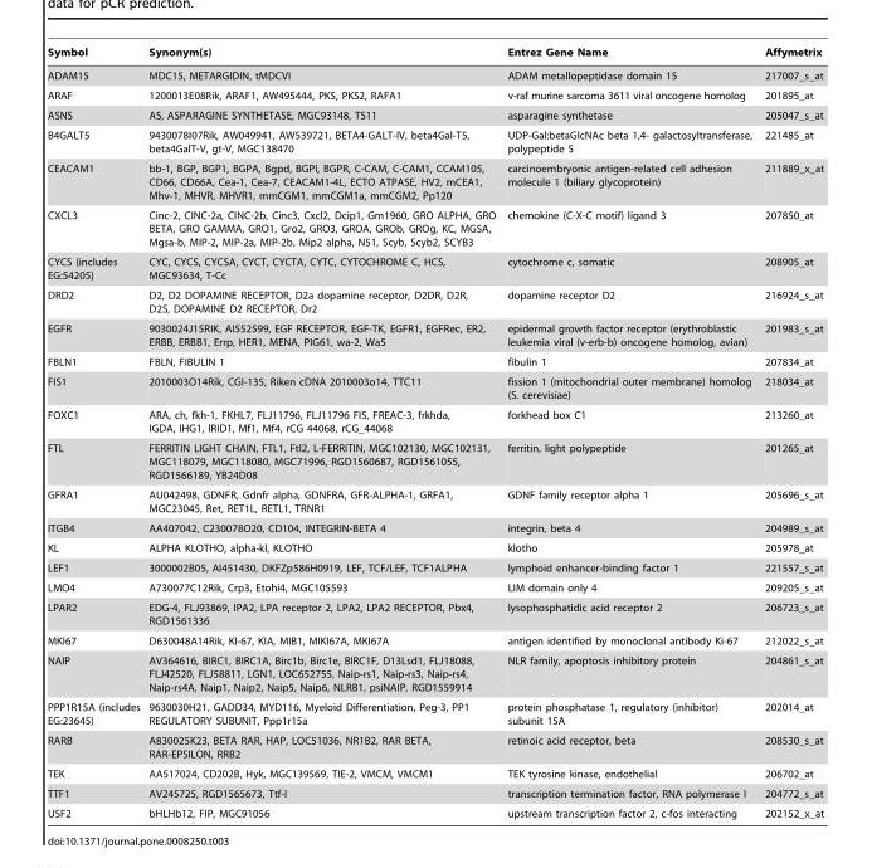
<table><thead><tr><td>Symbol</td><td>Synonym(s)</td><td>Entrez Gene Name</td><td>Affymetrix</td></tr></thead><tbody><tr><td>ADAM15</td><td>MDC15, METARGIDIN, tMDCVI</td><td>ADAM metallopeptidase domain 15</td><td>217007_s_at</td></tr><tr><td>ARAF</td><td>1200013E08Rik, ARAF1, AW495444, PKS, PKS2, RAFA1</td><td>v-raf murine sarcoma 3611 viral oncogene homolog</td><td>201895_at</td></tr><tr><td>ASNS</td><td>AS, ASPARAGINE SYNTHETASE, MGC93148, TS11</td><td>asparagine synthetase</td><td>205047_s_at</td></tr><tr><td>B4GALT5</td><td>9430078I07Rik, AW049941, AW539721, BETA4-GALT-IV, beta4Gal-T5, beta4GalT-V, gt-V, MGC138470</td><td>UDP-Gal:betaGlcNAc beta 1,4- galactosyltransferase, polypeptide 5</td><td>221485_at</td></tr><tr><td>CEACAM1</td><td>bb-1, BGP, BGP1, BGPA, Bgpd, BGPI, BGPR, C-CAM, C-CAM1, CCAM105, CD66, CD66A, Cea-1, Cea-7, CEACAM1-4L, ECTO ATPASE, HV2, mCEA1, Mhv-1, MHVR, MHVR1, mmCGM1, mmCGM1a, mmCGM2, Pp120</td><td>carcinoembryonic antigen-related cell adhesion molecule 1 (biliary glycoprotein)</td><td>211889_x_at</td></tr><tr><td>CXCL3</td><td>Cinc-2, CINC-2a, CINC-2b, Cinc3, Cxcl2, Dcip1, Gm1960, GRO ALPHA, GRO BETA, GRO GAMMA, GRO1, Gro2, GRO3, GROA, GROb, GROg, KC, MGSA, Mgsa-b, MIP-2, MIP-2a, MIP-2b, Mip2 alpha, N51, Scyb, Scyb2, SCYB3</td><td>chemokine (C-X-C motif) ligand 3</td><td>207850_at</td></tr><tr><td>CYCS (includes EG:54205)</td><td>CYC, CYCS, CYCSA, CYCT, CYCTA, CYTC, CYTOCHROME C, HCS, MGC93634, T-Cc</td><td>cytochrome c, somatic</td><td>208905_at</td></tr><tr><td>DRD2</td><td>D2, D2 DOPAMINE RECEPTOR, D2a dopamine receptor, D2DR, D2R, D2S, DOPAMINE D2 RECEPTOR, Dr2</td><td>dopamine receptor D2</td><td>216924_s_at</td></tr><tr><td>EGFR</td><td>9030024J15RIK, AI552599, EGF RECEPTOR, EGF-TK, EGFR1, EGFRec, ER2, ERBB, ERBB1, Errp, HER1, MENA, PIG61, wa-2, Wa5</td><td>epidermal growth factor receptor (erythroblastic leukemia viral (v-erb-b) oncogene homolog, avian)</td><td>201983_s_at</td></tr><tr><td>FBLN1</td><td>FBLN, FIBULIN 1</td><td>fibulin 1</td><td>207834_at</td></tr><tr><td>FIS1</td><td>2010003O14Rik, CGI-135, Riken cDNA 2010003o14, TTC11</td><td>fission 1 (mitochondrial outer membrane) homolog (S. cerevisiae)</td><td>218034_at</td></tr><tr><td>FOXC1</td><td>ARA, ch, fkh-1, FKHL7, FLJ11796, FLJ11796 FIS, FREAC-3, frkhda, IGDA, IHG1, IRID1, Mf1, Mf4, rCG 44068, rCG_44068</td><td>forkhead box C1</td><td>213260_at</td></tr><tr><td>FTL</td><td>FERRITIN LIGHT CHAIN, FTL1, Ftl2, L-FERRITIN, MGC102130, MGC102131, MGC118079, MGC118080, MGC71996, RGD1560687, RGD1561055, RGD1566189, YB24D08</td><td>ferritin, light polypeptide</td><td>201265_at</td></tr><tr><td>GFRA1</td><td>AU042498, GDNFR, Gdnfr alpha, GDNFRA, GFR-ALPHA-1, GRFA1, MGC23045, Ret, RET1L, RETL1, TRNR1</td><td>GDNF family receptor alpha 1</td><td>205696_s_at</td></tr><tr><td>ITGB4</td><td>AA407042, C230078O20, CD104, INTEGRIN-BETA 4</td><td>integrin, beta 4</td><td>204989_s_at</td></tr><tr><td>KL</td><td>ALPHA KLOTHO, alpha-kl, KLOTHO</td><td>klotho</td><td>205978_at</td></tr><tr><td>LEF1</td><td>3000002B05, AI451430, DKFZp586H0919, LEF, TCF/LEF, TCF1ALPHA</td><td>lymphoid enhancer-binding factor 1</td><td>221557_s_at</td></tr><tr><td>LMO4</td><td>A730077C12Rik, Crp3, Etohi4, MGC105593</td><td>LIM domain only 4</td><td>209205_s_at</td></tr><tr><td>LPAR2</td><td>EDG-4, FLJ93869, IPA2, LPA receptor 2, LPA2, LPA2 RECEPTOR, Pbx4, RGD1561336</td><td>lysophosphatidic acid receptor 2</td><td>206723_s_at</td></tr><tr><td>MKI67</td><td>D630048A14Rik, KI-67, KIA, MIB1, MIKI67A, MKI67A</td><td>antigen identified by monoclonal antibody Ki-67</td><td>212022_s_at</td></tr><tr><td>NAIP</td><td>AV364616, BIRC1, BIRC1A, Birc1b, Birc1e, BIRC1F, D13Lsd1, FLJ18088, FLJ42520, FLJ58811, LGN1, LOC652755, Naip-rs1, Naip-rs3, Naip-rs4, Naip-rs4A, Naip1, Naip2, Naip5, Naip6, NLRB1, psiNAIP, RGD1559914</td><td>NLR family, apoptosis inhibitory protein</td><td>204861_s_at</td></tr><tr><td>PPP1R15A (includes EG:23645)</td><td>9630030H21, GADD34, MYD116, Myeloid Differentiation, Peg-3, PP1 REGULATORY SUBUNIT, Ppp1r15a</td><td>protein phosphatase 1, regulatory (inhibitor) subunit 15A</td><td>202014_at</td></tr><tr><td>RARB</td><td>A830025K23, BETA RAR, HAP, LOC51036, NR1B2, RAR BETA, RAR-EPSILON, RRB2</td><td>retinoic acid receptor, beta</td><td>208530_s_at</td></tr><tr><td>TEK</td><td>AA517024, CD202B, Hyk, MGC139569, TIE-2, VMCM, VMCM1</td><td>TEK tyrosine kinase, endothelial</td><td>206702_at</td></tr><tr><td>TTF1</td><td>AV245725, RGD1565673, Ttf-I</td><td>transcription termination factor, RNA polymerase I</td><td>204772_s_at</td></tr><tr><td>USF2</td><td>bHLHb12, FIP, MGC91056</td><td>upstream transcription factor 2, c-fos interacting</td><td>202152_x_at</td></tr></tbody></table>